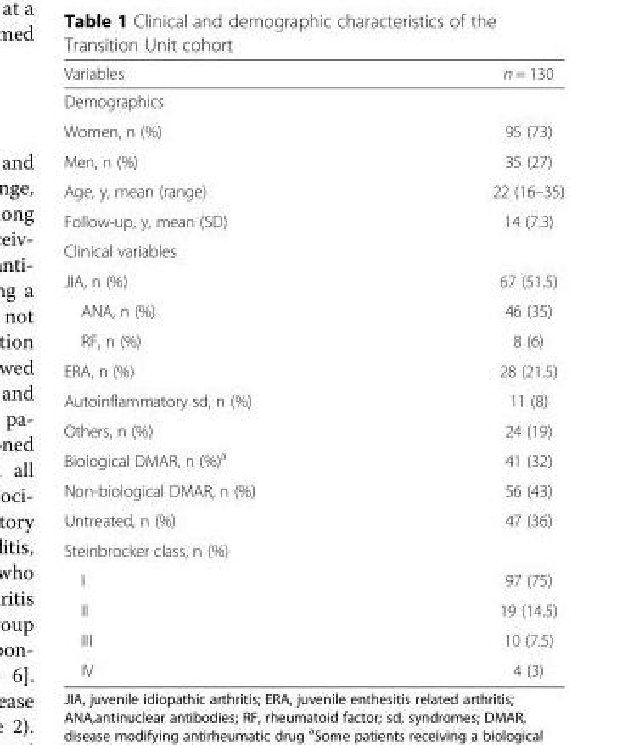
<table><thead><tr><td>Variables</td><td>n = 130</td></tr></thead><tbody><tr><td colspan="2">Demographics</td></tr><tr><td>Women, n (%)</td><td>95 (73)</td></tr><tr><td>Men, n (%)</td><td>35 (27)</td></tr><tr><td>Age, y, mean (range)</td><td>22 (16–35)</td></tr><tr><td>Follow-up, y, mean (SD)</td><td>14 (7.3)</td></tr><tr><td colspan="2">Clinical variables</td></tr><tr><td>JIA, n (%)</td><td>67 (51.5)</td></tr><tr><td>ANA, n (%)</td><td>46 (35)</td></tr><tr><td>RF, n (%)</td><td>8 (6)</td></tr><tr><td>ERA, n (%)</td><td>28 (21.5)</td></tr><tr><td>Autoinflammatory sd, n (%)</td><td>11 (8)</td></tr><tr><td>Others, n (%)</td><td>24 (19)</td></tr><tr><td>Biological DMAR, n (%)<sup>a</sup></td><td>41 (32)</td></tr><tr><td>Non-biological DMAR, n (%)</td><td>56 (43)</td></tr><tr><td>Untreated, n (%)</td><td>47 (36)</td></tr><tr><td colspan="2">Steinbrocker class, n (%)</td></tr><tr><td>I</td><td>97 (75)</td></tr><tr><td>II</td><td>19 (14.5)</td></tr><tr><td>III</td><td>10 (7.5)</td></tr><tr><td>IV</td><td>4 (3)</td></tr></tbody></table>